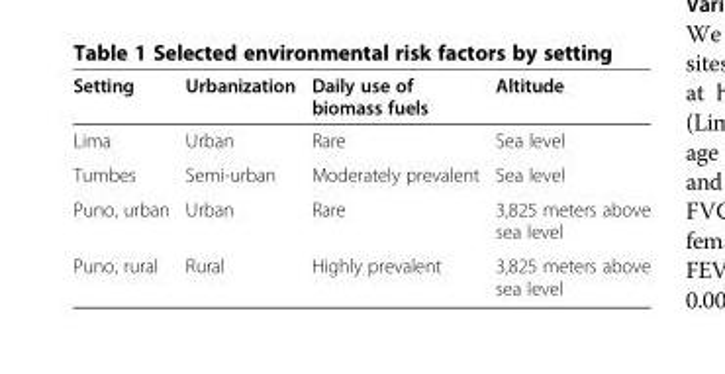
<table><thead><tr><td>Setting</td><td>Urbanization</td><td>Daily use of biomass fuels</td><td>Altitude</td></tr></thead><tbody><tr><td>Lima</td><td>Urban</td><td>Rare</td><td>Sea level</td></tr><tr><td>Tumbes</td><td>Semi-urban</td><td>Moderately prevalent</td><td>Sea level</td></tr><tr><td>Puno, urban</td><td>Urban</td><td>Rare</td><td>3,825 meters above sea level</td></tr><tr><td>Puno, rural</td><td>Rural</td><td>Highly prevalent</td><td>3,825 meters above sea level</td></tr></tbody></table>